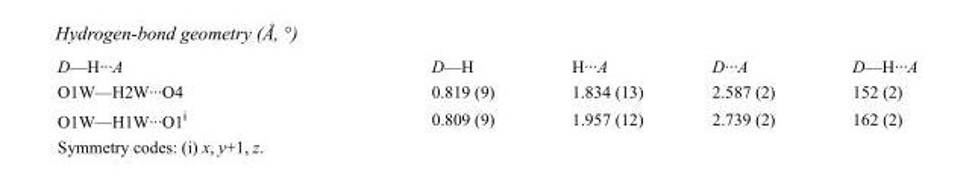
<table><tbody><tr><td>D—H···A</td><td>D—H</td><td>H···A</td><td>D···A</td><td>D—H···A</td></tr><tr><td>O1W—H2W···O4</td><td>0.819 (9)</td><td>1.834 (13)</td><td>2.587 (2)</td><td>152 (2)</td></tr><tr><td>O1W—H1W···O1<sup>i</sup></td><td>0.809 (9)</td><td>1.957 (12)</td><td>2.739 (2)</td><td>162 (2)</td></tr></tbody></table>